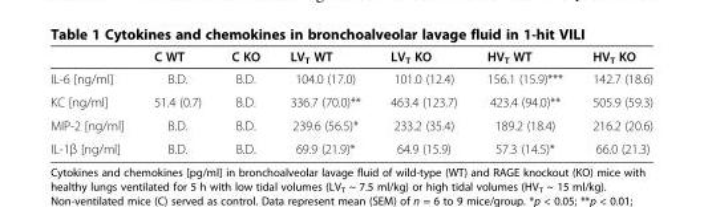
<table><thead><tr><td></td><td>C WT</td><td>C KO</td><td>LV<sub>T</sub> WT</td><td>LV<sub>T</sub> KO</td><td>HV<sub>T</sub> WT</td><td>HV<sub>T</sub> KO</td></tr></thead><tbody><tr><td>IL-6 [ng/ml]</td><td>B.D.</td><td>B.D.</td><td>104.0 (17.0)</td><td>101.0 (12.4)</td><td>156.1 (15.9)***</td><td>142.7 (18.6)</td></tr><tr><td>KC [ng/ml]</td><td>51.4 (0.7)</td><td>B.D.</td><td>336.7 (70.0)**</td><td>463.4 (123.7)</td><td>423.4 (94.0)**</td><td>505.9 (59.3)</td></tr><tr><td>MIP-2 [ng/ml]</td><td>B.D.</td><td>B.D.</td><td>239.6 (56.5)*</td><td>233.2 (35.4)</td><td>189.2 (18.4)</td><td>216.2 (20.6)</td></tr><tr><td>IL-1β [ng/ml]</td><td>B.D.</td><td>B.D.</td><td>69.9 (21.9)*</td><td>64.9 (15.9)</td><td>57.3 (14.5)*</td><td>66.0 (21.3)</td></tr></tbody></table>